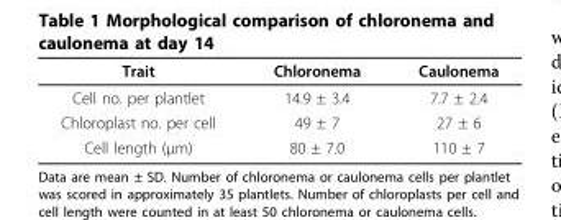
<table><thead><tr><td>Trait</td><td>Chloronema</td><td>Caulonema</td></tr></thead><tbody><tr><td>Cell no. per plantlet</td><td>14.9 ± 3.4</td><td>7.7 ± 2.4</td></tr><tr><td>Chloroplast no. per cell</td><td>49 ± 7</td><td>27 ± 6</td></tr><tr><td>Cell length (μm)</td><td>80 ± 7.0</td><td>110 ± 7</td></tr></tbody></table>